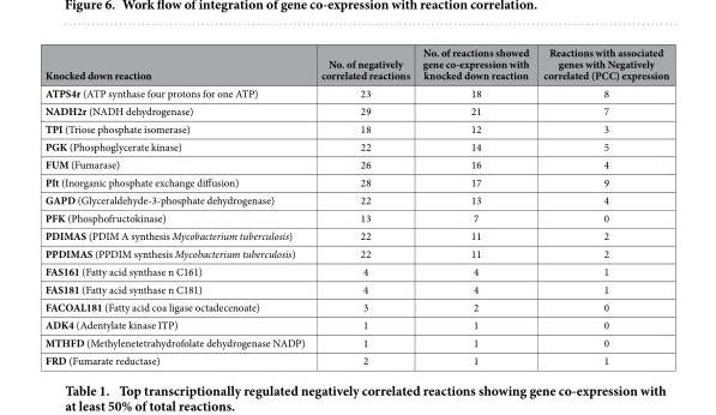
<table><thead><tr><td>Knocked down reaction</td><td>No. of negatively correlated reactions</td><td>No. of reactions showed gene co-expression with knocked down reaction</td><td>Reactions with associated genes with Negatively correlated (PCC) expression</td></tr></thead><tbody><tr><td>ATPS4r (ATP synthase four protons for one ATP)</td><td>23</td><td>18</td><td>8</td></tr><tr><td>NADH2r (NADH dehydrogenase)</td><td>29</td><td>21</td><td>7</td></tr><tr><td>TPI (Triose phosphate isomerase)</td><td>18</td><td>12</td><td>3</td></tr><tr><td>PGK (Phosphoglycerate kinase)</td><td>22</td><td>14</td><td>5</td></tr><tr><td>FUM (Fumarase)</td><td>26</td><td>16</td><td>4</td></tr><tr><td>PIt (Inorganic phosphate exchange diffusion)</td><td>28</td><td>17</td><td>9</td></tr><tr><td>GAPD (Glyceraldehyde-3-phosphate dehydrogenase)</td><td>22</td><td>13</td><td>4</td></tr><tr><td>PFK (Phosphofructokinase)</td><td>13</td><td>7</td><td>0</td></tr><tr><td>PDIMAS (PDIM A synthesis Mycobacterium tuberculosis)</td><td>22</td><td>11</td><td>2</td></tr><tr><td>PPDIMAS (PPDIM synthesis Mycobacterium tuberculosis)</td><td>22</td><td>11</td><td>2</td></tr><tr><td>FAS161 (Fatty acid synthase n C161)</td><td>4</td><td>4</td><td>1</td></tr><tr><td>FAS181 (Fatty acid synthase n C181)</td><td>4</td><td>4</td><td>1</td></tr><tr><td>FACOAL181 (Fatty acid coa ligase octadecenoate)</td><td>3</td><td>2</td><td>0</td></tr><tr><td>ADK4 (Adentylate kinase ITP)</td><td>1</td><td>1</td><td>0</td></tr><tr><td>MTHFD (Methylenetetrahydrofolate dehydrogenase NADP)</td><td>1</td><td>1</td><td>0</td></tr><tr><td>FRD (Fumarate reductase)</td><td>2</td><td>1</td><td>1</td></tr></tbody></table>